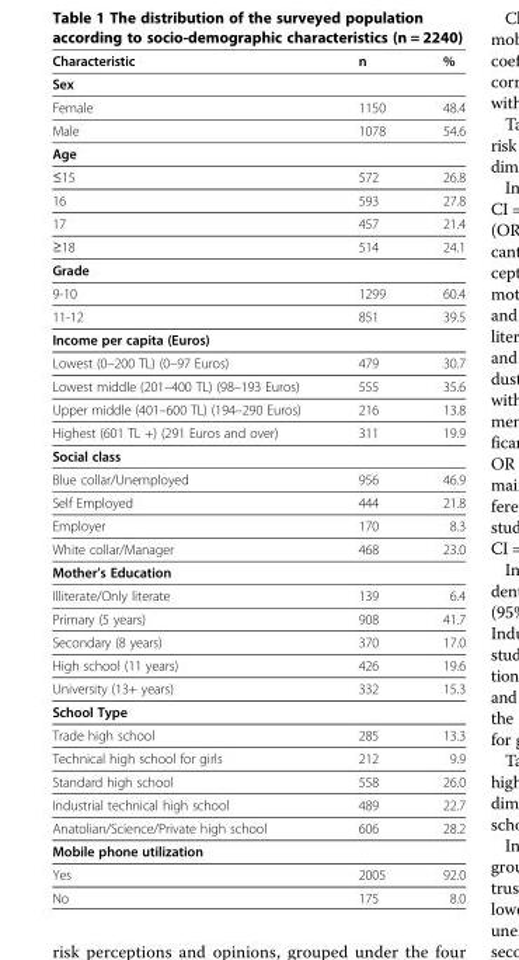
<table><thead><tr><td>Characteristic</td><td>n</td><td>%</td></tr></thead><tbody><tr><td colspan="3">Sex</td></tr><tr><td>Female</td><td>1150</td><td>48.4</td></tr><tr><td>Male</td><td>1078</td><td>54.6</td></tr><tr><td colspan="3">Age</td></tr><tr><td>≤15</td><td>572</td><td>26.8</td></tr><tr><td>16</td><td>593</td><td>27.8</td></tr><tr><td>17</td><td>457</td><td>21.4</td></tr><tr><td>≥18</td><td>514</td><td>24.1</td></tr><tr><td colspan="3">Grade</td></tr><tr><td>9-10</td><td>1299</td><td>60.4</td></tr><tr><td>11-12</td><td>851</td><td>39.5</td></tr><tr><td colspan="3">Income per capita (Euros)</td></tr><tr><td>Lowest (0–200 TL) (0–97 Euros)</td><td>479</td><td>30.7</td></tr><tr><td>Lowest middle (201–400 TL) (98–193 Euros)</td><td>555</td><td>35.6</td></tr><tr><td>Upper middle (401–600 TL) (194–290 Euros)</td><td>216</td><td>13.8</td></tr><tr><td>Highest (601 TL +) (291 Euros and over)</td><td>311</td><td>19.9</td></tr><tr><td colspan="3">Social class</td></tr><tr><td>Blue collar/Unemployed</td><td>956</td><td>46.9</td></tr><tr><td>Self Employed</td><td>444</td><td>21.8</td></tr><tr><td>Employer</td><td>170</td><td>8.3</td></tr><tr><td>White collar/Manager</td><td>468</td><td>23.0</td></tr><tr><td colspan="3">Mother’s Education</td></tr><tr><td>Illiterate/Only literate</td><td>139</td><td>6.4</td></tr><tr><td>Primary (5 years)</td><td>908</td><td>41.7</td></tr><tr><td>Secondary (8 years)</td><td>370</td><td>17.0</td></tr><tr><td>High school (11 years)</td><td>426</td><td>19.6</td></tr><tr><td>University (13+ years)</td><td>332</td><td>15.3</td></tr><tr><td colspan="3">School Type</td></tr><tr><td>Trade high school</td><td>285</td><td>13.3</td></tr><tr><td>Technical high school for girls</td><td>212</td><td>9.9</td></tr><tr><td>Standard high school</td><td>558</td><td>26.0</td></tr><tr><td>Industrial technical high school</td><td>489</td><td>22.7</td></tr><tr><td>Anatolian/Science/Private high school</td><td>606</td><td>28.2</td></tr><tr><td colspan="3">Mobile phone utilization</td></tr><tr><td>Yes</td><td>2005</td><td>92.0</td></tr><tr><td>No</td><td>175</td><td>8.0</td></tr></tbody></table>